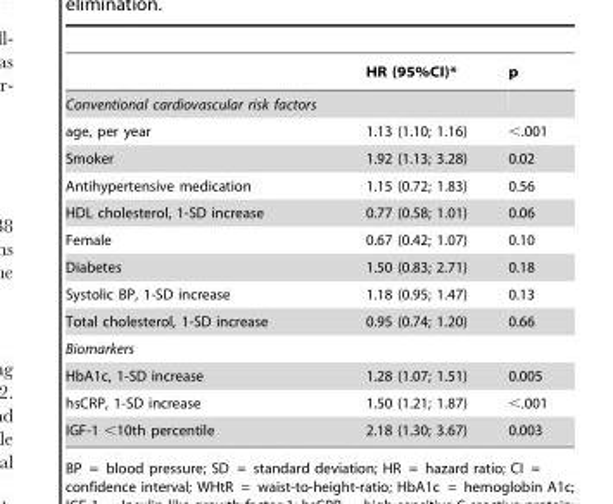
<table><thead><tr><td></td><td>HR (95%CI)*</td><td>p</td></tr></thead><tbody><tr><td colspan="3">Conventional cardiovascular risk factors</td></tr><tr><td>age, per year</td><td>1.13 (1.10; 1.16)</td><td>&lt;.001</td></tr><tr><td>Smoker</td><td>1.92 (1.13; 3.28)</td><td>0.02</td></tr><tr><td>Antihypertensive medication</td><td>1.15 (0.72; 1.83)</td><td>0.56</td></tr><tr><td>HDL cholesterol, 1-SD increase</td><td>0.77 (0.58; 1.01)</td><td>0.06</td></tr><tr><td>Female</td><td>0.67 (0.42; 1.07)</td><td>0.10</td></tr><tr><td>Diabetes</td><td>1.50 (0.83; 2.71)</td><td>0.18</td></tr><tr><td>Systolic BP, 1-SD increase</td><td>1.18 (0.95; 1.47)</td><td>0.13</td></tr><tr><td>Total cholesterol, 1-SD increase</td><td>0.95 (0.74; 1.20)</td><td>0.66</td></tr><tr><td colspan="3">Biomarkers</td></tr><tr><td>HbA1c, 1-SD increase</td><td>1.28 (1.07; 1.51)</td><td>0.005</td></tr><tr><td>hsCRP, 1-SD increase</td><td>1.50 (1.21; 1.87)</td><td>&lt;.001</td></tr><tr><td>IGF-1 &lt;10th percentile</td><td>2.18 (1.30; 3.67)</td><td>0.003</td></tr></tbody></table>